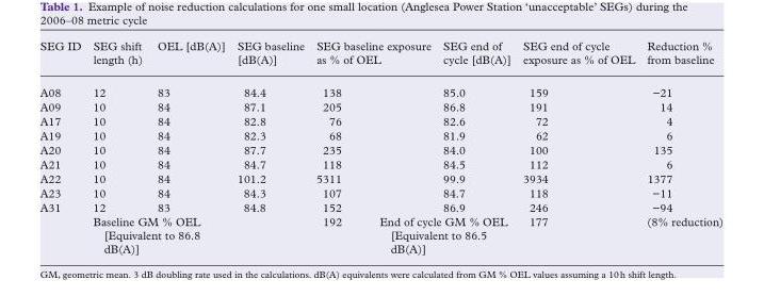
<table><thead><tr><td>SEG ID</td><td>SEG shift length (h)</td><td>OEL [dB(A)]</td><td>SEG baseline [dB(A)]</td><td colspan="2">SEG baseline exposure as % of OEL</td><td>SEG end of cycle [dB(A)]</td><td>SEG end of cycle exposure as % of OEL</td><td>Reduction % from baseline</td></tr></thead><tbody><tr><td>A08</td><td>12</td><td>83</td><td>84.4</td><td colspan="2">138</td><td>85.0</td><td>159</td><td>−21</td></tr><tr><td>A09</td><td>10</td><td>84</td><td>87.1</td><td colspan="2">205</td><td>86.8</td><td>191</td><td>14</td></tr><tr><td>A17</td><td>10</td><td>84</td><td>82.8</td><td colspan="2">76</td><td>82.6</td><td>72</td><td>4</td></tr><tr><td>A19</td><td>10</td><td>84</td><td>82.3</td><td colspan="2">68</td><td>81.9</td><td>62</td><td>6</td></tr><tr><td>A20</td><td>10</td><td>84</td><td>87.7</td><td colspan="2">235</td><td>84.0</td><td>100</td><td>135</td></tr><tr><td>A21</td><td>10</td><td>84</td><td>84.7</td><td colspan="2">118</td><td>84.5</td><td>112</td><td>6</td></tr><tr><td>A22</td><td>10</td><td>84</td><td>101.2</td><td colspan="2">5311</td><td>99.9</td><td>3934</td><td>1377</td></tr><tr><td>A23</td><td>10</td><td>84</td><td>84.3</td><td colspan="2">107</td><td>84.7</td><td>118</td><td>−11</td></tr><tr><td rowspan="2">A31</td><td>12</td><td>83</td><td>84.8</td><td colspan="2">152</td><td>86.9</td><td>246</td><td>−94</td></tr><tr><td colspan="3">Baseline GM % OEL [Equivalent to 86.8 dB(A)]</td><td>192</td><td colspan="2">End of cycle GM % OEL [Equivalent to 86.5 dB(A)]</td><td>177</td><td>(8% reduction)</td></tr></tbody></table>